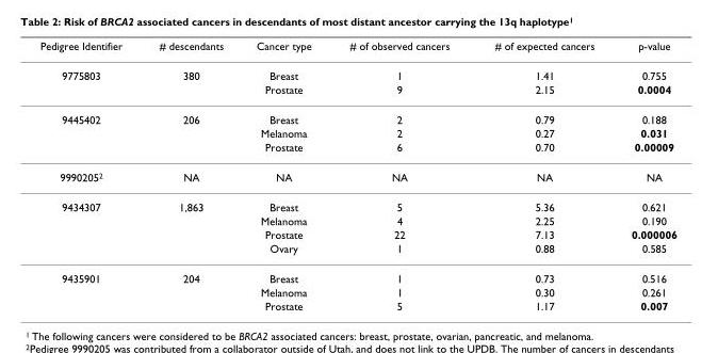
<table><thead><tr><td>Pedigree Identifier</td><td># descendants</td><td>Cancer type</td><td># of observed cancers</td><td># of expected cancers</td><td>p-value</td></tr></thead><tbody><tr><td rowspan="2">9775803</td><td>380</td><td>Breast</td><td>1</td><td>1.41</td><td>0.755</td></tr><tr><td></td><td>Prostate</td><td>9</td><td>2.15</td><td>0.0004</td></tr><tr><td rowspan="3">9445402</td><td>206</td><td>Breast</td><td>2</td><td>0.79</td><td>0.188</td></tr><tr><td></td><td>Melanoma</td><td>2</td><td>0.27</td><td>0.031</td></tr><tr><td></td><td>Prostate</td><td>6</td><td>0.70</td><td>0.00009</td></tr><tr><td>9990205<sup>2</sup></td><td>NA</td><td>NA</td><td>NA</td><td>NA</td><td>NA</td></tr><tr><td rowspan="4">9434307</td><td>1,863</td><td>Breast</td><td>5</td><td>5.36</td><td>0.621</td></tr><tr><td></td><td>Melanoma</td><td>4</td><td>2.25</td><td>0.190</td></tr><tr><td></td><td>Prostate</td><td>22</td><td>7.13</td><td>0.000006</td></tr><tr><td></td><td>Ovary</td><td>1</td><td>0.88</td><td>0.585</td></tr><tr><td rowspan="3">9435901</td><td>204</td><td>Breast</td><td>1</td><td>0.73</td><td>0.516</td></tr><tr><td></td><td>Melanoma</td><td>1</td><td>0.30</td><td>0.261</td></tr><tr><td></td><td>Prostate</td><td>5</td><td>1.17</td><td>0.007</td></tr></tbody></table>